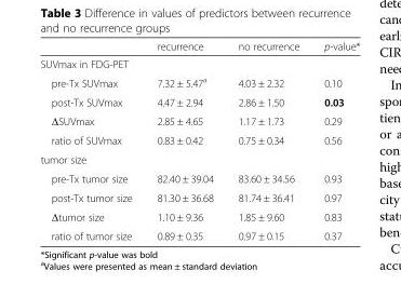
<table><thead><tr><td></td><td>recurrence</td><td>no recurrence</td><td>p-value*</td></tr></thead><tbody><tr><td colspan="4">SUVmax in FDG-PET</td></tr><tr><td>pre-Tx SUVmax</td><td>7.32 ± 5.47<sup>a</sup></td><td>4.03 ± 2.32</td><td>0.10</td></tr><tr><td>post-Tx SUVmax</td><td>4.47 ± 2.94</td><td>2.86 ± 1.50</td><td>0.03</td></tr><tr><td>ΔSUVmax</td><td>2.85 ± 4.65</td><td>1.17 ± 1.73</td><td>0.29</td></tr><tr><td>ratio of SUVmax</td><td>0.83 ± 0.42</td><td>0.75 ± 0.34</td><td>0.56</td></tr><tr><td colspan="4">tumor size</td></tr><tr><td>pre-Tx tumor size</td><td>82.40 ± 39.04</td><td>83.60 ± 34.56</td><td>0.93</td></tr><tr><td>post-Tx tumor size</td><td>81.30 ± 36.68</td><td>81.74 ± 36.41</td><td>0.97</td></tr><tr><td>Δtumor size</td><td>1.10 ± 9.36</td><td>1.85 ± 9.60</td><td>0.83</td></tr><tr><td>ratio of tumor size</td><td>0.89 ± 0.35</td><td>0.97 ± 0.15</td><td>0.37</td></tr></tbody></table>